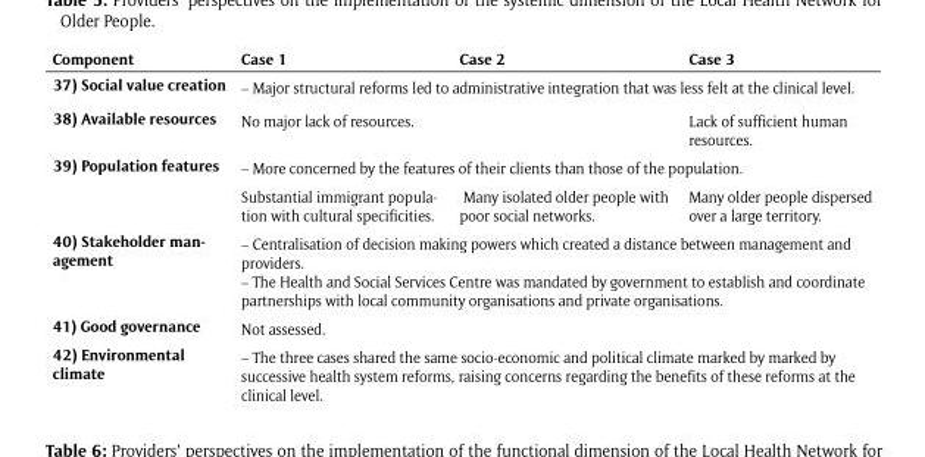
<table><thead><tr><td>Component</td><td>Case 1</td><td>Case 2</td><td>Case 3</td></tr></thead><tbody><tr><td>37) Social value creation</td><td colspan="3">– Major structural reforms led to administrative integration that was less felt at the clinical level.</td></tr><tr><td>38) Available resources</td><td colspan="2">No major lack of resources.</td><td>Lack of sufficient human resources.</td></tr><tr><td rowspan="2">39) Population features</td><td colspan="3">– More concerned by the features of their clients than those of the population.</td></tr><tr><td>Substantial immigrant popula- tion with cultural specificities.</td><td>Many isolated older people with poor social networks.</td><td>Many older people dispersed over a large territory.</td></tr><tr><td>40) Stakeholder man- agement</td><td colspan="3">– Centralisation of decision making powers which created a distance between management and providers. – The Health and Social Services Centre was mandated by government to establish and coordinate partnerships with local community organisations and private organisations.</td></tr><tr><td>41) Good governance</td><td colspan="3">Not assessed.</td></tr><tr><td>42) Environmental climate</td><td colspan="3">– The three cases shared the same socio-economic and political climate marked by marked by successive health system reforms, raising concerns regarding the benefits of these reforms at the clinical level.</td></tr></tbody></table>